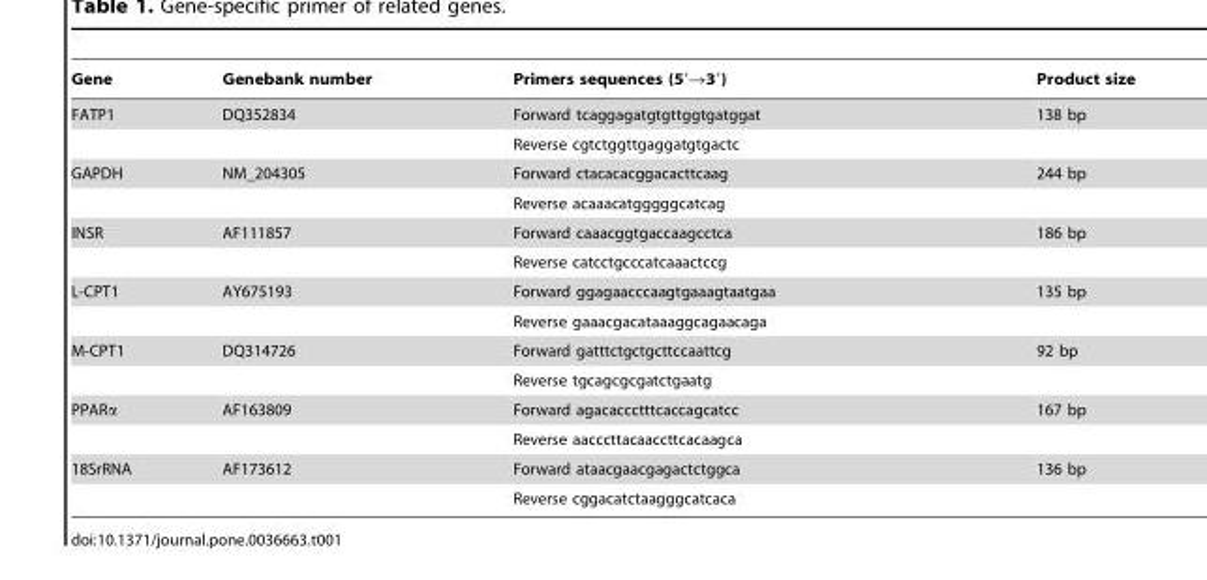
<table><thead><tr><td>Gene</td><td>Genebank number</td><td>Primers sequences (5′→3′)</td><td>Product size</td></tr></thead><tbody><tr><td rowspan="2">FATP1</td><td>DQ352834</td><td>Forward tcaggagatgtgttggtgatggat</td><td>138 bp</td></tr><tr><td></td><td>Reverse cgtctggttgaggatgtgactc</td><td></td></tr><tr><td rowspan="2">GAPDH</td><td>NM_204305</td><td>Forward ctacacacggacacttcaag</td><td>244 bp</td></tr><tr><td></td><td>Reverse acaaacatgggggcatcag</td><td></td></tr><tr><td rowspan="2">INSR</td><td>AF111857</td><td>Forward caaacggtgaccaagcctca</td><td>186 bp</td></tr><tr><td></td><td>Reverse catcctgcccatcaaactccg</td><td></td></tr><tr><td rowspan="2">L-CPT1</td><td>AY675193</td><td>Forward ggagaacccaagtgaaagtaatgaa</td><td>135 bp</td></tr><tr><td></td><td>Reverse gaaacgacataaaggcagaacaga</td><td></td></tr><tr><td rowspan="2">M-CPT1</td><td>DQ314726</td><td>Forward gatttctgctgcttccaattcg</td><td>92 bp</td></tr><tr><td></td><td>Reverse tgcagcgcgatctgaatg</td><td></td></tr><tr><td rowspan="2">PPARα</td><td>AF163809</td><td>Forward agacaccctttcaccagcatcc</td><td>167 bp</td></tr><tr><td></td><td>Reverse aacccttacaaccttcacaagca</td><td></td></tr><tr><td rowspan="2">18SrRNA</td><td>AF173612</td><td>Forward ataacgaacgagactctggca</td><td>136 bp</td></tr><tr><td></td><td>Reverse cggacatctaagggcatcaca</td><td></td></tr></tbody></table>